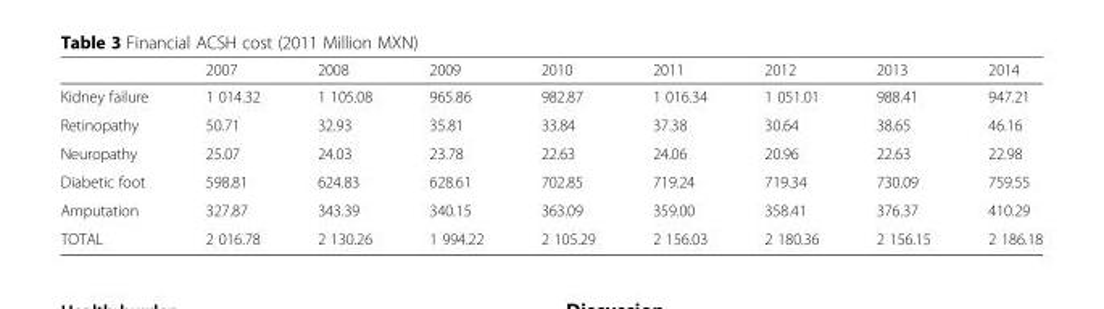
<table><thead><tr><td></td><td>2007</td><td>2008</td><td>2009</td><td>2010</td><td>2011</td><td>2012</td><td>2013</td><td>2014</td></tr></thead><tbody><tr><td>Kidney failure</td><td>1 014.32</td><td>1 105.08</td><td>965.86</td><td>982.87</td><td>1 016.34</td><td>1 051.01</td><td>988.41</td><td>947.21</td></tr><tr><td>Retinopathy</td><td>50.71</td><td>32.93</td><td>35.81</td><td>33.84</td><td>37.38</td><td>30.64</td><td>38.65</td><td>46.16</td></tr><tr><td>Neuropathy</td><td>25.07</td><td>24.03</td><td>23.78</td><td>22.63</td><td>24.06</td><td>20.96</td><td>22.63</td><td>22.98</td></tr><tr><td>Diabetic foot</td><td>598.81</td><td>624.83</td><td>628.61</td><td>702.85</td><td>719.24</td><td>719.34</td><td>730.09</td><td>759.55</td></tr><tr><td>Amputation</td><td>327.87</td><td>343.39</td><td>340.15</td><td>363.09</td><td>359.00</td><td>358.41</td><td>376.37</td><td>410.29</td></tr><tr><td>TOTAL</td><td>2 016.78</td><td>2 130.26</td><td>1 994.22</td><td>2 105.29</td><td>2 156.03</td><td>2 180.36</td><td>2 156.15</td><td>2 186.18</td></tr></tbody></table>